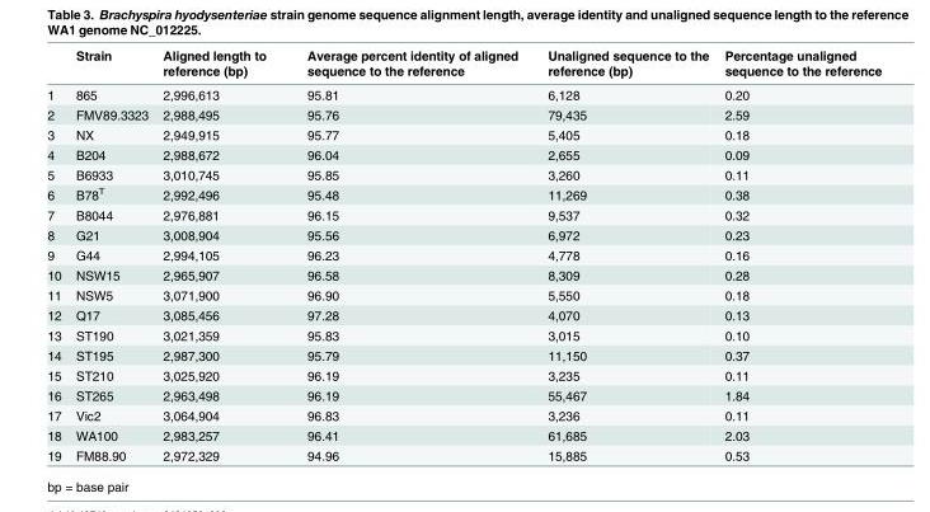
<table><thead><tr><td></td><td>Strain</td><td>Aligned length to reference (bp)</td><td>Average percent identity of aligned sequence to the reference</td><td>Unaligned sequence to the reference (bp)</td><td>Percentage unaligned sequence to the reference</td></tr></thead><tbody><tr><td>1</td><td>865</td><td>2,996,613</td><td>95.81</td><td>6,128</td><td>0.20</td></tr><tr><td>2</td><td>FMV89.3323</td><td>2,988,495</td><td>95.76</td><td>79,435</td><td>2.59</td></tr><tr><td>3</td><td>NX</td><td>2,949,915</td><td>95.77</td><td>5,405</td><td>0.18</td></tr><tr><td>4</td><td>B204</td><td>2,988,672</td><td>96.04</td><td>2,655</td><td>0.09</td></tr><tr><td>5</td><td>B6933</td><td>3,010,745</td><td>95.85</td><td>3,260</td><td>0.11</td></tr><tr><td>6</td><td>B78<sup>T</sup></td><td>2,992,496</td><td>95.48</td><td>11,269</td><td>0.38</td></tr><tr><td>7</td><td>B8044</td><td>2,976,881</td><td>96.15</td><td>9,537</td><td>0.32</td></tr><tr><td>8</td><td>G21</td><td>3,008,904</td><td>95.56</td><td>6,972</td><td>0.23</td></tr><tr><td>9</td><td>G44</td><td>2,994,105</td><td>96.23</td><td>4,778</td><td>0.16</td></tr><tr><td>10</td><td>NSW15</td><td>2,965,907</td><td>96.58</td><td>8,309</td><td>0.28</td></tr><tr><td>11</td><td>NSW5</td><td>3,071,900</td><td>96.90</td><td>5,550</td><td>0.18</td></tr><tr><td>12</td><td>Q17</td><td>3,085,456</td><td>97.28</td><td>4,070</td><td>0.13</td></tr><tr><td>13</td><td>ST190</td><td>3,021,359</td><td>95.83</td><td>3,015</td><td>0.10</td></tr><tr><td>14</td><td>ST195</td><td>2,987,300</td><td>95.79</td><td>11,150</td><td>0.37</td></tr><tr><td>15</td><td>ST210</td><td>3,025,920</td><td>96.19</td><td>3,235</td><td>0.11</td></tr><tr><td>16</td><td>ST265</td><td>2,963,498</td><td>96.19</td><td>55,467</td><td>1.84</td></tr><tr><td>17</td><td>Vic2</td><td>3,064,904</td><td>96.83</td><td>3,236</td><td>0.11</td></tr><tr><td>18</td><td>WA100</td><td>2,983,257</td><td>96.41</td><td>61,685</td><td>2.03</td></tr><tr><td>19</td><td>FM88.90</td><td>2,972,329</td><td>94.96</td><td>15,885</td><td>0.53</td></tr></tbody></table>